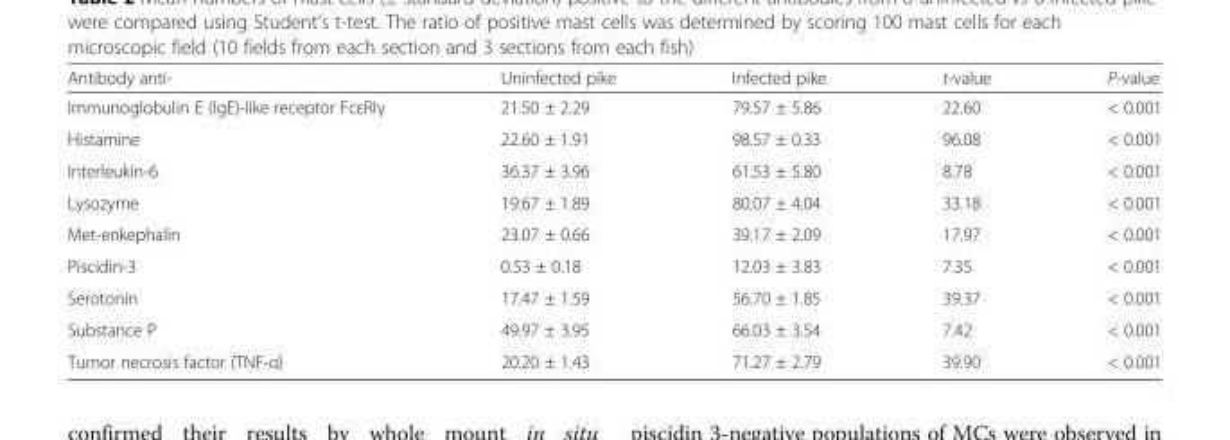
<table><thead><tr><td>Antibody anti-</td><td>Uninfected pike</td><td>Infected pike</td><td>t-value</td><td>P-value</td></tr></thead><tbody><tr><td>Immunoglobulin E (IgE)-like receptor FcεRIγ</td><td>21.50 ± 2.29</td><td>79.57 ± 5.86</td><td>22.60</td><td>&lt; 0.001</td></tr><tr><td>Histamine</td><td>22.60 ± 1.91</td><td>98.57 ± 0.33</td><td>96.08</td><td>&lt; 0.001</td></tr><tr><td>Interleukin-6</td><td>36.37 ± 3.96</td><td>61.53 ± 5.80</td><td>8.78</td><td>&lt; 0.001</td></tr><tr><td>Lysozyme</td><td>19.67 ± 1.89</td><td>80.07 ± 4.04</td><td>33.18</td><td>&lt; 0.001</td></tr><tr><td>Met-enkephalin</td><td>23.07 ± 0.66</td><td>39.17 ± 2.09</td><td>17.97</td><td>&lt; 0.001</td></tr><tr><td>Piscidin-3</td><td>0.53 ± 0.18</td><td>12.03 ± 3.83</td><td>7.35</td><td>&lt; 0.001</td></tr><tr><td>Serotonin</td><td>17.47 ± 1.59</td><td>56.70 ± 1.85</td><td>39.37</td><td>&lt; 0.001</td></tr><tr><td>Substance P</td><td>49.97 ± 3.95</td><td>66.03 ± 3.54</td><td>7.42</td><td>&lt; 0.001</td></tr><tr><td>Tumor necrosis factor (TNF-α)</td><td>20.20 ± 1.43</td><td>71.27 ± 2.79</td><td>39.90</td><td>&lt; 0.001</td></tr></tbody></table>